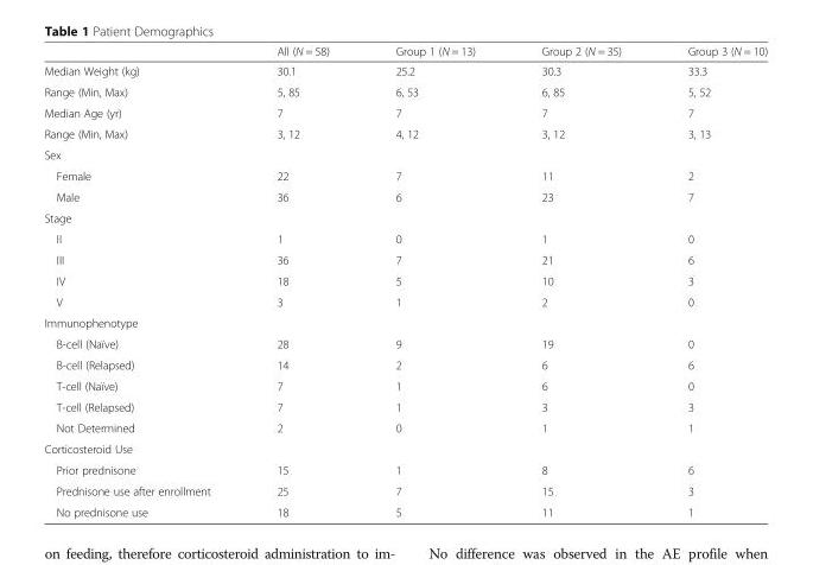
<table><thead><tr><td></td><td>All (N = 58)</td><td>Group 1 (N = 13)</td><td>Group 2 (N = 35)</td><td>Group 3 (N = 10)</td></tr></thead><tbody><tr><td>Median Weight (kg)</td><td>30.1</td><td>25.2</td><td>30.3</td><td>33.3</td></tr><tr><td>Range (Min, Max)</td><td>5, 85</td><td>6, 53</td><td>6, 85</td><td>5, 52</td></tr><tr><td>Median Age (yr)</td><td>7</td><td>7</td><td>7</td><td>7</td></tr><tr><td>Range (Min, Max)</td><td>3, 12</td><td>4, 12</td><td>3, 12</td><td>3, 13</td></tr><tr><td colspan="5">Sex</td></tr><tr><td>Female</td><td>22</td><td>7</td><td>11</td><td>2</td></tr><tr><td>Male</td><td>36</td><td>6</td><td>23</td><td>7</td></tr><tr><td colspan="5">Stage</td></tr><tr><td>II</td><td>1</td><td>0</td><td>1</td><td>0</td></tr><tr><td>III</td><td>36</td><td>7</td><td>21</td><td>6</td></tr><tr><td>IV</td><td>18</td><td>5</td><td>10</td><td>3</td></tr><tr><td>V</td><td>3</td><td>1</td><td>2</td><td>0</td></tr><tr><td colspan="5">Immunophenotype</td></tr><tr><td>B-cell (Naïve)</td><td>28</td><td>9</td><td>19</td><td>0</td></tr><tr><td>B-cell (Relapsed)</td><td>14</td><td>2</td><td>6</td><td>6</td></tr><tr><td>T-cell (Naïve)</td><td>7</td><td>1</td><td>6</td><td>0</td></tr><tr><td>T-cell (Relapsed)</td><td>7</td><td>1</td><td>3</td><td>3</td></tr><tr><td>Not Determined</td><td>2</td><td>0</td><td>1</td><td>1</td></tr><tr><td colspan="5">Corticosteroid Use</td></tr><tr><td>Prior prednisone</td><td>15</td><td>1</td><td>8</td><td>6</td></tr><tr><td>Prednisone use after enrollment</td><td>25</td><td>7</td><td>15</td><td>3</td></tr><tr><td>No prednisone use</td><td>18</td><td>5</td><td>11</td><td>1</td></tr></tbody></table>